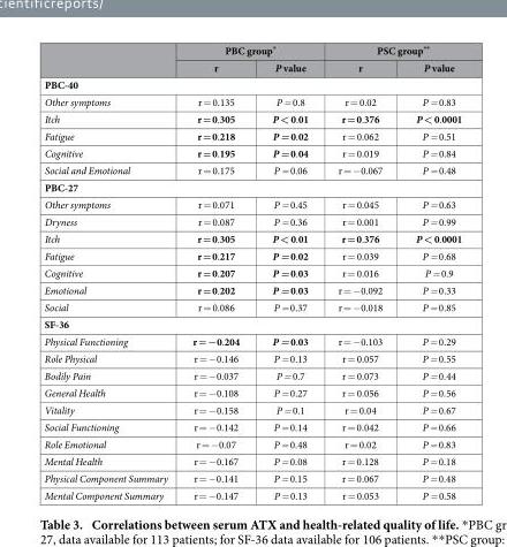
<table><thead><tr><td rowspan="2"></td><td colspan="2">PBC group*</td><td colspan="2">PSC group**</td></tr><tr><td>r</td><td>P value</td><td>r</td><td>P value</td></tr></thead><tbody><tr><td colspan="5">PBC-40</td></tr><tr><td>Other symptoms</td><td>r = 0.135</td><td>P = 0.8</td><td>r = 0.02</td><td>P = 0.83</td></tr><tr><td>Itch</td><td>r = 0.305</td><td>P &lt; 0.01</td><td>r = 0.376</td><td>P &lt; 0.0001</td></tr><tr><td>Fatigue</td><td>r = 0.218</td><td>P = 0.02</td><td>r = 0.062</td><td>P = 0.51</td></tr><tr><td>Cognitive</td><td>r = 0.195</td><td>P = 0.04</td><td>r = 0.019</td><td>P = 0.84</td></tr><tr><td>Social and Emotional</td><td>r = 0.175</td><td>P = 0.06</td><td>r = − 0.067</td><td>P = 0.48</td></tr><tr><td colspan="5">PBC-27</td></tr><tr><td>Other symptoms</td><td>r = 0.071</td><td>P = 0.45</td><td>r = 0.045</td><td>P = 0.63</td></tr><tr><td>Dryness</td><td>r = 0.087</td><td>P = 0.36</td><td>r = 0.001</td><td>P = 0.99</td></tr><tr><td>Itch</td><td>r = 0.305</td><td>P &lt; 0.01</td><td>r = 0.376</td><td>P &lt; 0.0001</td></tr><tr><td>Fatigue</td><td>r = 0.217</td><td>P = 0.02</td><td>r = 0.039</td><td>P = 0.68</td></tr><tr><td>Cognitive</td><td>r = 0.207</td><td>P = 0.03</td><td>r = 0.016</td><td>P = 0.9</td></tr><tr><td>Emotional</td><td>r = 0.202</td><td>P = 0.03</td><td>r = − 0.092</td><td>P = 0.33</td></tr><tr><td>Social</td><td>r = 0.086</td><td>P = 0.37</td><td>r = − 0.018</td><td>P = 0.85</td></tr><tr><td colspan="5">SF-36</td></tr><tr><td>Physical Functioning</td><td>r = −0.204</td><td>P = 0.03</td><td>r = − 0.103</td><td>P = 0.29</td></tr><tr><td>Role Physical</td><td>r = − 0.146</td><td>P = 0.13</td><td>r = 0.057</td><td>P = 0.55</td></tr><tr><td>Bodily Pain</td><td>r = − 0.037</td><td>P = 0.7</td><td>r = 0.073</td><td>P = 0.44</td></tr><tr><td>General Health</td><td>r = − 0.108</td><td>P = 0.27</td><td>r = 0.056</td><td>P = 0.56</td></tr><tr><td>Vitality</td><td>r = − 0.158</td><td>P = 0.1</td><td>r = 0.04</td><td>P = 0.67</td></tr><tr><td>Social Functioning</td><td>r = − 0.142</td><td>P = 0.14</td><td>r = 0.042</td><td>P = 0.66</td></tr><tr><td>Role Emotional</td><td>r = − 0.07</td><td>P = 0.48</td><td>r = 0.02</td><td>P = 0.83</td></tr><tr><td>Mental Health</td><td>r = − 0.167</td><td>P = 0.08</td><td>r = 0.128</td><td>P = 0.18</td></tr><tr><td>Physical Component Summary</td><td>r = − 0.141</td><td>P = 0.15</td><td>r = 0.067</td><td>P = 0.48</td></tr><tr><td>Mental Component Summary</td><td>r = − 0.147</td><td>P = 0.13</td><td>r = 0.053</td><td>P = 0.58</td></tr></tbody></table>